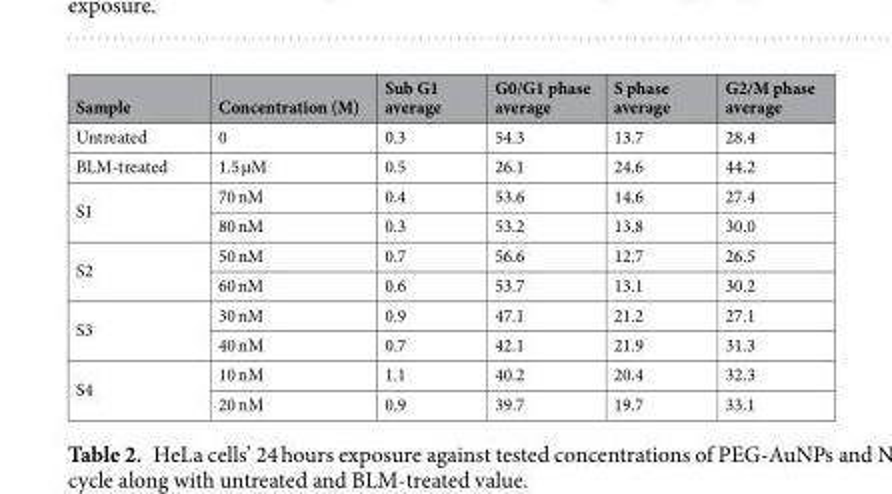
<table><thead><tr><td>Sample</td><td>Concentration (M)</td><td>Sub G1 average</td><td>G0/G1 phase average</td><td>S phase average</td><td>G2/M phase average</td></tr></thead><tbody><tr><td>Untreated</td><td>0</td><td>0.3</td><td>54.3</td><td>13.7</td><td>28.4</td></tr><tr><td>BLM-treated</td><td>1.5 µM</td><td>0.5</td><td>26.1</td><td>24.6</td><td>44.2</td></tr><tr><td rowspan="2">S1</td><td>70 nM</td><td>0.4</td><td>53.6</td><td>14.6</td><td>27.4</td></tr><tr><td>80 nM</td><td>0.3</td><td>53.2</td><td>13.8</td><td>30.0</td></tr><tr><td rowspan="2">S2</td><td>50 nM</td><td>0.7</td><td>56.6</td><td>12.7</td><td>26.5</td></tr><tr><td>60 nM</td><td>0.6</td><td>53.7</td><td>13.1</td><td>30.2</td></tr><tr><td rowspan="2">S3</td><td>30 nM</td><td>0.9</td><td>47.1</td><td>21.2</td><td>27.1</td></tr><tr><td>40 nM</td><td>0.7</td><td>42.1</td><td>21.9</td><td>31.3</td></tr><tr><td rowspan="2">S4</td><td>10 nM</td><td>1.1</td><td>40.2</td><td>20.4</td><td>32.3</td></tr><tr><td>20 nM</td><td>0.9</td><td>39.7</td><td>19.7</td><td>33.1</td></tr></tbody></table>